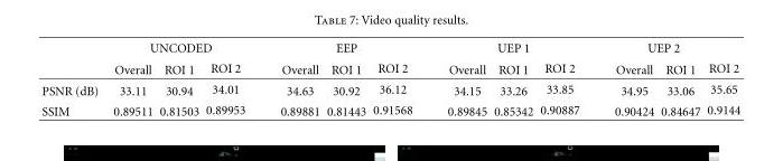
<table><thead><tr><td rowspan="2"></td><td colspan="3">UNCODED</td><td colspan="3">EEP</td><td colspan="3">UEP 1</td><td colspan="3">UEP 2</td></tr><tr><td>Overall</td><td>ROI 1</td><td>ROI 2</td><td>Overall</td><td>ROI 1</td><td>ROI 2</td><td>Overall</td><td>ROI 1</td><td>ROI 2</td><td>Overall</td><td>ROI 1</td><td>ROI 2</td></tr></thead><tbody><tr><td>PSNR (dB)</td><td>33.11</td><td>30.94</td><td>34.01</td><td>34.63</td><td>30.92</td><td>36.12</td><td>34.15</td><td>33.26</td><td>33.85</td><td>34.95</td><td>33.06</td><td>35.65</td></tr><tr><td>SSIM</td><td>0.89511</td><td>0.81503</td><td>0.89953</td><td>0.89881</td><td>0.81443</td><td>0.91568</td><td>0.89845</td><td>0.85342</td><td>0.90887</td><td>0.90424</td><td>0.84647</td><td>0.9144</td></tr></tbody></table>